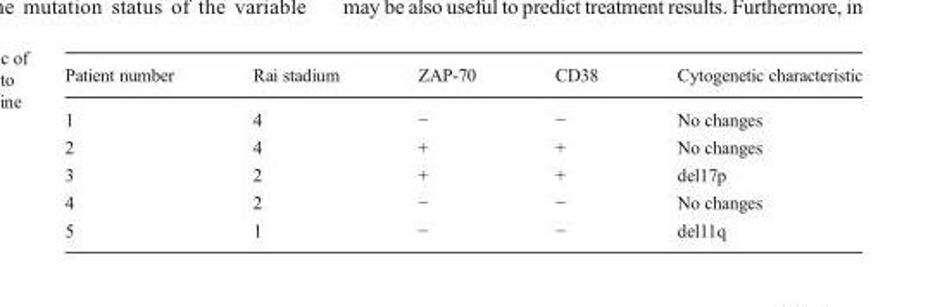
<table><thead><tr><td>Patient number</td><td>Rai stadium</td><td>ZAP-70</td><td>CD38</td><td>Cytogenetic characteristic</td></tr></thead><tbody><tr><td>1</td><td>4</td><td>−</td><td>−</td><td>No changes</td></tr><tr><td>2</td><td>4</td><td>+</td><td>+</td><td>No changes</td></tr><tr><td>3</td><td>2</td><td>+</td><td>+</td><td>del17p</td></tr><tr><td>4</td><td>2</td><td>−</td><td>−</td><td>No changes</td></tr><tr><td>5</td><td>1</td><td>−</td><td>−</td><td>del11q</td></tr></tbody></table>